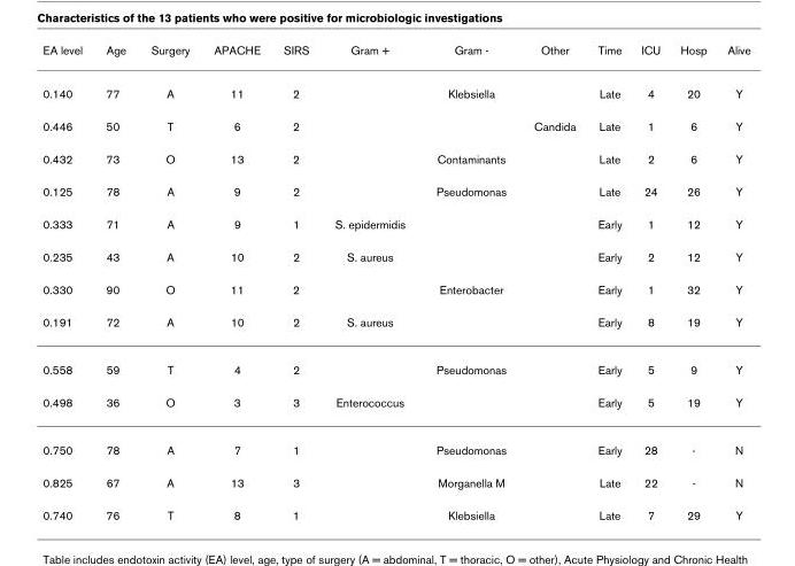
<table><thead><tr><td>EA level</td><td>Age</td><td>Surgery</td><td>APACHE</td><td>SIRS</td><td>Gram +</td><td>Gram -</td><td>Other</td><td>Time</td><td>ICU</td><td>Hosp</td><td>Alive</td></tr></thead><tbody><tr><td>0.140</td><td>77</td><td>A</td><td>11</td><td>2</td><td></td><td>Klebsiella</td><td></td><td>Late</td><td>4</td><td>20</td><td>Y</td></tr><tr><td>0.446</td><td>50</td><td>T</td><td>6</td><td>2</td><td></td><td></td><td>Candida</td><td>Late</td><td>1</td><td>6</td><td>Y</td></tr><tr><td>0.432</td><td>73</td><td>O</td><td>13</td><td>2</td><td></td><td>Contaminants</td><td></td><td>Late</td><td>2</td><td>6</td><td>Y</td></tr><tr><td>0.125</td><td>78</td><td>A</td><td>9</td><td>2</td><td></td><td>Pseudomonas</td><td></td><td>Late</td><td>24</td><td>26</td><td>Y</td></tr><tr><td>0.333</td><td>71</td><td>A</td><td>9</td><td>1</td><td>S. epidermidis</td><td></td><td></td><td>Early</td><td>1</td><td>12</td><td>Y</td></tr><tr><td>0.235</td><td>43</td><td>A</td><td>10</td><td>2</td><td>S. aureus</td><td></td><td></td><td>Early</td><td>2</td><td>12</td><td>Y</td></tr><tr><td>0.330</td><td>90</td><td>O</td><td>11</td><td>2</td><td></td><td>Enterobacter</td><td></td><td>Early</td><td>1</td><td>32</td><td>Y</td></tr><tr><td>0.191</td><td>72</td><td>A</td><td>10</td><td>2</td><td>S. aureus</td><td></td><td></td><td>Early</td><td>8</td><td>19</td><td>Y</td></tr><tr><td>0.558</td><td>59</td><td>T</td><td>4</td><td>2</td><td></td><td>Pseudomonas</td><td></td><td>Early</td><td>5</td><td>9</td><td>Y</td></tr><tr><td>0.498</td><td>36</td><td>O</td><td>3</td><td>3</td><td>Enterococcus</td><td></td><td></td><td>Early</td><td>5</td><td>19</td><td>Y</td></tr><tr><td>0.750</td><td>78</td><td>A</td><td>7</td><td>1</td><td></td><td>Pseudomonas</td><td></td><td>Early</td><td>28</td><td>-</td><td>N</td></tr><tr><td>0.825</td><td>67</td><td>A</td><td>13</td><td>3</td><td></td><td>Morganella M</td><td></td><td>Late</td><td>22</td><td>-</td><td>N</td></tr><tr><td>0.740</td><td>76</td><td>T</td><td>8</td><td>1</td><td></td><td>Klebsiella</td><td></td><td>Late</td><td>7</td><td>29</td><td>Y</td></tr></tbody></table>